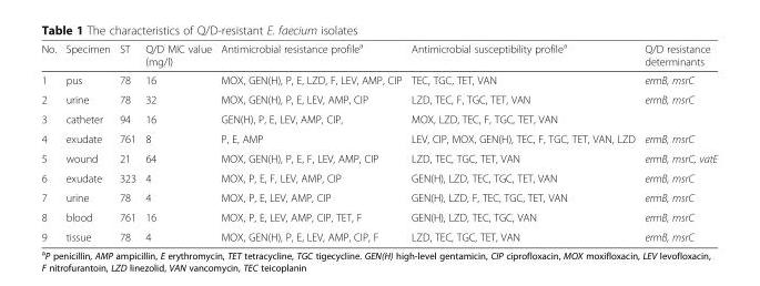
<table><thead><tr><td>No.</td><td>Specimen</td><td>ST</td><td>Q/D MIC value (mg/l)</td><td>Antimicrobial resistance profile<sup>a</sup></td><td>Antimicrobial susceptibility profile<sup>a</sup></td><td>Q/D resistance determinants</td></tr></thead><tbody><tr><td>1</td><td>pus</td><td>78</td><td>16</td><td>MOX, GEN(H), P, E, LZD, F, LEV, AMP, CIP</td><td>TEC, TGC, TET, VAN</td><td>ermB, msrC</td></tr><tr><td>2</td><td>urine</td><td>78</td><td>32</td><td>MOX, GEN(H), P, E, LEV, AMP, CIP</td><td>LZD, TEC, F, TGC, TET, VAN</td><td>ermB, msrC</td></tr><tr><td>3</td><td>catheter</td><td>94</td><td>16</td><td>GEN(H), P, E, LEV, AMP, CIP,</td><td>MOX, LZD, TEC, F, TGC, TET, VAN</td><td></td></tr><tr><td>4</td><td>exudate</td><td>761</td><td>8</td><td>P, E, AMP</td><td>LEV, CIP, MOX, GEN(H), TEC, F, TGC, TET, VAN, LZD</td><td>ermB, msrC</td></tr><tr><td>5</td><td>wound</td><td>21</td><td>64</td><td>MOX, GEN(H), P, E, F, LEV, AMP, CIP</td><td>LZD, TEC, TGC, TET, VAN</td><td>ermB, msrC, vatE</td></tr><tr><td>6</td><td>exudate</td><td>323</td><td>4</td><td>MOX, P, E, F, LEV, AMP, CIP</td><td>GEN(H), LZD, TEC, TGC, TET, VAN</td><td>ermB, msrC</td></tr><tr><td>7</td><td>urine</td><td>78</td><td>4</td><td>MOX, P, E, LEV, AMP, CIP</td><td>GEN(H), LZD, F, TEC, TGC, TET, VAN</td><td>ermB, msrC</td></tr><tr><td>8</td><td>blood</td><td>761</td><td>16</td><td>MOX, P, E, LEV, AMP, CIP, TET, F</td><td>GEN(H), LZD, TEC, TGC, VAN</td><td>ermB, msrC</td></tr><tr><td>9</td><td>tissue</td><td>78</td><td>4</td><td>MOX, GEN(H), P, E, LEV, AMP, CIP, F</td><td>LZD, TEC, TGC, TET, VAN</td><td>ermB, msrC</td></tr></tbody></table>